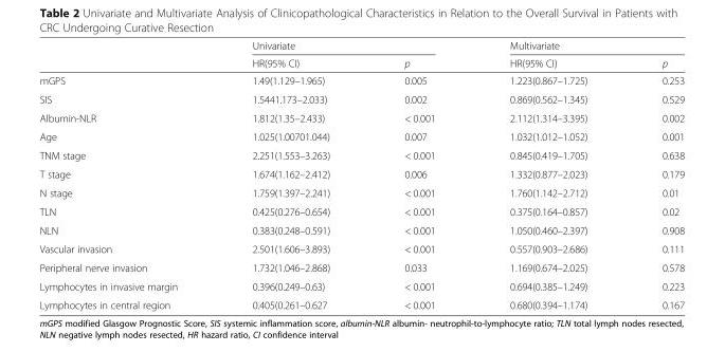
<table><thead><tr><td rowspan="2"></td><td colspan="2">Univariate</td><td colspan="2">Multivariate</td></tr><tr><td>HR(95% CI)</td><td>p</td><td>HR(95% CI)</td><td>p</td></tr></thead><tbody><tr><td>mGPS</td><td>1.49(1.129–1.965)</td><td>0.005</td><td>1.223(0.867–1.725)</td><td>0.253</td></tr><tr><td>SIS</td><td>1.5441.173–2.033)</td><td>0.002</td><td>0.869(0.562–1.345)</td><td>0.529</td></tr><tr><td>Albumin-NLR</td><td>1.812(1.35–2.433)</td><td>&lt; 0.001</td><td>2.112(1.314–3.395)</td><td>0.002</td></tr><tr><td>Age</td><td>1.025(1.00701.044)</td><td>0.007</td><td>1.032(1.012–1.052)</td><td>0.001</td></tr><tr><td>TNM stage</td><td>2.251(1.553–3.263)</td><td>&lt; 0.001</td><td>0.845(0.419–1.705)</td><td>0.638</td></tr><tr><td>T stage</td><td>1.674(1.162–2.412)</td><td>0.006</td><td>1.332(0.877–2.023)</td><td>0.179</td></tr><tr><td>N stage</td><td>1.759(1.397–2.241)</td><td>&lt; 0.001</td><td>1.760(1.142–2.712)</td><td>0.01</td></tr><tr><td>TLN</td><td>0.425(0.276–0.654)</td><td>&lt; 0.001</td><td>0.375(0.164–0.857)</td><td>0.02</td></tr><tr><td>NLN</td><td>0.383(0.248–0.591)</td><td>&lt; 0.001</td><td>1.050(0.460–2.397)</td><td>0.908</td></tr><tr><td>Vascular invasion</td><td>2.501(1.606–3.893)</td><td>&lt; 0.001</td><td>0.557(0.903–2.686)</td><td>0.111</td></tr><tr><td>Peripheral nerve invasion</td><td>1.732(1.046–2.868)</td><td>0.033</td><td>1.169(0.674–2.025)</td><td>0.578</td></tr><tr><td>Lymphocytes in invasive margin</td><td>0.396(0.249–0.63)</td><td>&lt; 0.001</td><td>0.694(0.385–1.249)</td><td>0.223</td></tr><tr><td>Lymphocytes in central region</td><td>0.405(0.261–0.627</td><td>&lt; 0.001</td><td>0.680(0.394–1.174)</td><td>0.167</td></tr></tbody></table>